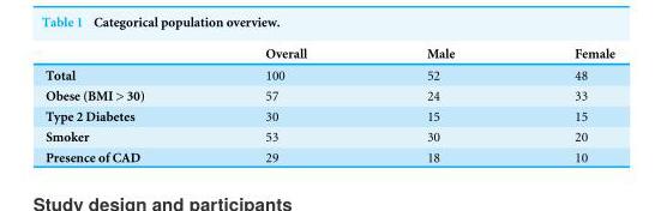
<table><thead><tr><td></td><td>Overall</td><td>Male</td><td>Female</td></tr></thead><tbody><tr><td>Total</td><td>100</td><td>52</td><td>48</td></tr><tr><td>Obese (BMI &gt; 30)</td><td>57</td><td>24</td><td>33</td></tr><tr><td>Type 2 Diabetes</td><td>30</td><td>15</td><td>15</td></tr><tr><td>Smoker</td><td>53</td><td>30</td><td>20</td></tr><tr><td>Presence of CAD</td><td>29</td><td>18</td><td>10</td></tr></tbody></table>